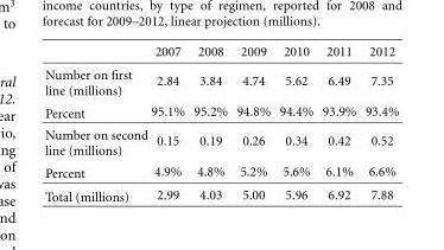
<table><thead><tr><td></td><td>2007</td><td>2008</td><td>2009</td><td>2010</td><td>2011</td><td>2012</td></tr></thead><tbody><tr><td>Number on first line (millions)</td><td>2.84</td><td>3.84</td><td>4.74</td><td>5.62</td><td>6.49</td><td>7.35</td></tr><tr><td>Percent</td><td>95.1%</td><td>95.2%</td><td>94.8%</td><td>94.4%</td><td>93.9%</td><td>93.4%</td></tr><tr><td>Number on second line (millions)</td><td>0.15</td><td>0.19</td><td>0.26</td><td>0.34</td><td>0.42</td><td>0.52</td></tr><tr><td>Percent</td><td>4.9%</td><td>4.8%</td><td>5.2%</td><td>5.6%</td><td>6.1%</td><td>6.6%</td></tr><tr><td>Total (millions)</td><td>2.99</td><td>4.03</td><td>5.00</td><td>5.96</td><td>6.92</td><td>7.88</td></tr></tbody></table>